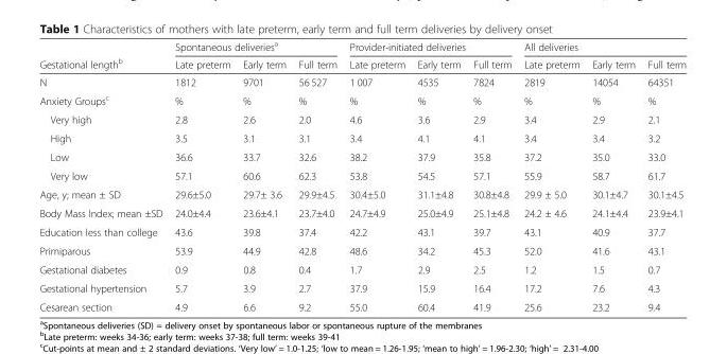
<table><thead><tr><td rowspan="2">Gestational length<sup>b</sup></td><td colspan="3">Spontaneous deliveries<sup>a</sup></td><td colspan="3">Provider-initiated deliveries</td><td colspan="3">All deliveries</td></tr><tr><td>Late preterm</td><td>Early term</td><td>Full term</td><td>Late preterm</td><td>Early term</td><td>Full term</td><td>Late preterm</td><td>Early term</td><td>Full term</td></tr></thead><tbody><tr><td>N</td><td>1812</td><td>9701</td><td>56 527</td><td>1 007</td><td>4535</td><td>7824</td><td>2819</td><td>14054</td><td>64351</td></tr><tr><td>Anxiety Groups<sup>c</sup></td><td>%</td><td>%</td><td>%</td><td>%</td><td>%</td><td>%</td><td>%</td><td>%</td><td>%</td></tr><tr><td>Very high</td><td>2.8</td><td>2.6</td><td>2.0</td><td>4.6</td><td>3.6</td><td>2.9</td><td>3.4</td><td>2.9</td><td>2.1</td></tr><tr><td>High</td><td>3.5</td><td>3.1</td><td>3.1</td><td>3.4</td><td>4.1</td><td>4.1</td><td>3.4</td><td>3.4</td><td>3.2</td></tr><tr><td>Low</td><td>36.6</td><td>33.7</td><td>32.6</td><td>38.2</td><td>37.9</td><td>35.8</td><td>37.2</td><td>35.0</td><td>33.0</td></tr><tr><td>Very low</td><td>57.1</td><td>60.6</td><td>62.3</td><td>53.8</td><td>54.5</td><td>57.1</td><td>55.9</td><td>58.7</td><td>61.7</td></tr><tr><td>Age, y; mean ± SD</td><td>29.6±5.0</td><td>29.7± 3.6</td><td>29.9±4.5</td><td>30.4±5.0</td><td>31.1±4.8</td><td>30.8±4.8</td><td>29.9 ± 5.0</td><td>30.1±4.7</td><td>30.1±4.5</td></tr><tr><td>Body Mass Index; mean ±SD</td><td>24.0±4.4</td><td>23.6±4.1</td><td>23.7±4.0</td><td>24.7±4.9</td><td>25.0±4.9</td><td>25.1±4.8</td><td>24.2 ± 4.6</td><td>24.1±4.4</td><td>23.9±4.1</td></tr><tr><td>Education less than college</td><td>43.6</td><td>39.8</td><td>37.4</td><td>42.2</td><td>43.1</td><td>39.7</td><td>43.1</td><td>40.9</td><td>37.7</td></tr><tr><td>Primiparous</td><td>53.9</td><td>44.9</td><td>42.8</td><td>48.6</td><td>34.2</td><td>45.3</td><td>52.0</td><td>41.6</td><td>43.1</td></tr><tr><td>Gestational diabetes</td><td>0.9</td><td>0.8</td><td>0.4</td><td>1.7</td><td>2.9</td><td>2.5</td><td>1.2</td><td>1.5</td><td>0.7</td></tr><tr><td>Gestational hypertension</td><td>5.7</td><td>3.9</td><td>2.7</td><td>37.9</td><td>15.9</td><td>16.4</td><td>17.2</td><td>7.6</td><td>4.3</td></tr><tr><td>Cesarean section</td><td>4.9</td><td>6.6</td><td>9.2</td><td>55.0</td><td>60.4</td><td>41.9</td><td>25.6</td><td>23.2</td><td>9.4</td></tr></tbody></table>